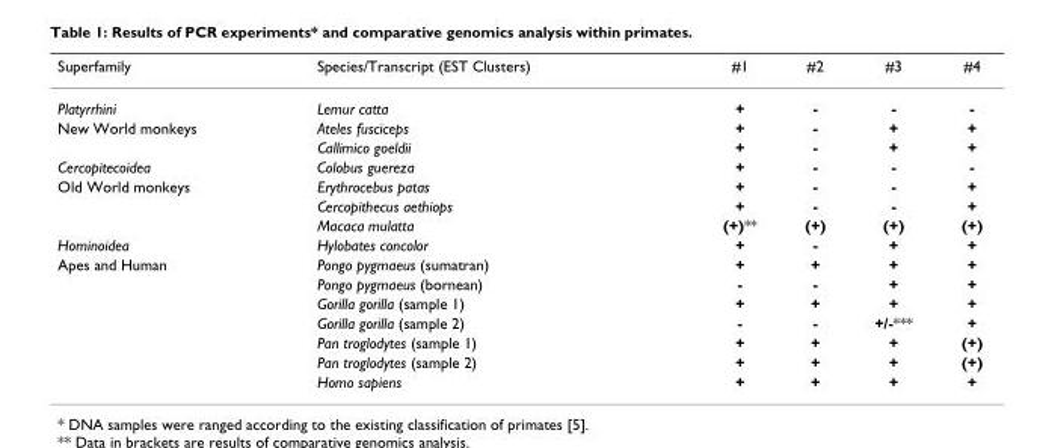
<table><thead><tr><td>Superfamily</td><td>Species/Transcript (EST Clusters)</td><td>#1</td><td>#2</td><td>#3</td><td>#4</td></tr></thead><tbody><tr><td>Platyrrhini</td><td>Lemur catta</td><td>+</td><td>-</td><td>-</td><td>-</td></tr><tr><td rowspan="2">New World monkeys</td><td>Ateles fusciceps</td><td>+</td><td>-</td><td>+</td><td>+</td></tr><tr><td>Callimico goeldii</td><td>+</td><td>-</td><td>+</td><td>+</td></tr><tr><td>Cercopitecoidea</td><td>Colobus guereza</td><td>+</td><td>-</td><td>-</td><td>-</td></tr><tr><td rowspan="3">Old World monkeys</td><td>Erythrocebus patas</td><td>+</td><td>-</td><td>-</td><td>+</td></tr><tr><td>Cercopithecus aethiops</td><td>+</td><td>-</td><td>-</td><td>+</td></tr><tr><td>Macaca mulatta</td><td>(+)**</td><td>(+)</td><td>(+)</td><td>(+)</td></tr><tr><td>Hominoidea</td><td>Hylobates concolor</td><td>+</td><td>-</td><td>+</td><td>+</td></tr><tr><td rowspan="7">Apes and Human</td><td>Pongo pygmaeus (sumatran)</td><td>+</td><td>+</td><td>+</td><td>+</td></tr><tr><td>Pongo pygmaeus (bornean)</td><td>-</td><td>-</td><td>+</td><td>+</td></tr><tr><td>Gorilla gorilla (sample 1)</td><td>+</td><td>+</td><td>+</td><td>+</td></tr><tr><td>Gorilla gorilla (sample 2)</td><td>-</td><td>-</td><td>+/-***</td><td>+</td></tr><tr><td>Pan troglodytes (sample 1)</td><td>+</td><td>+</td><td>+</td><td>(+)</td></tr><tr><td>Pan troglodytes (sample 2)</td><td>+</td><td>+</td><td>+</td><td>(+)</td></tr><tr><td>Homo sapiens</td><td>+</td><td>+</td><td>+</td><td>+</td></tr></tbody></table>